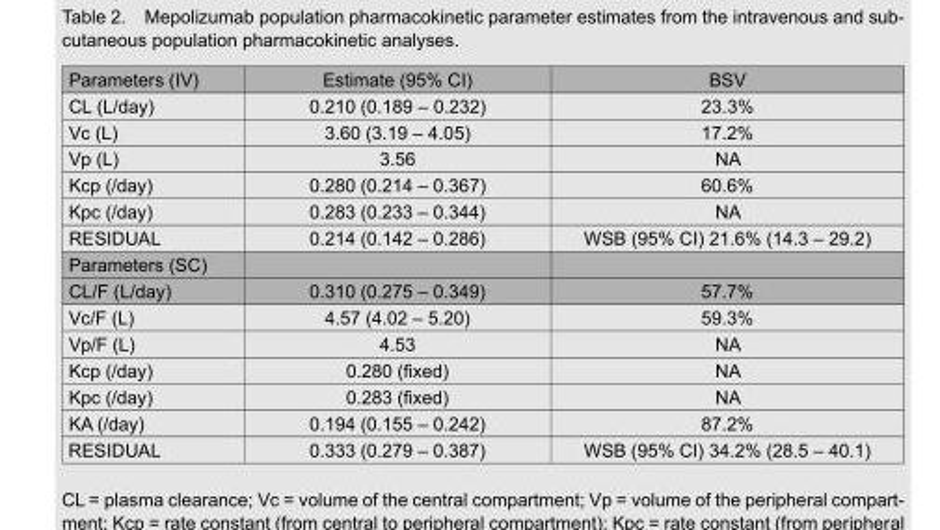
<table><thead><tr><td>Parameters (IV)</td><td>Estimate (95% CI)</td><td>BSV</td></tr></thead><tbody><tr><td>CL (L/day)</td><td>0.210 (0.189 – 0.232)</td><td>23.3%</td></tr><tr><td>Vc (L)</td><td>3.60 (3.19 – 4.05)</td><td>17.2%</td></tr><tr><td>Vp (L)</td><td>3.56</td><td>NA</td></tr><tr><td>Kcp (/day)</td><td>0.280 (0.214 – 0.367)</td><td>60.6%</td></tr><tr><td>Kpc (/day)</td><td>0.283 (0.233 – 0.344)</td><td>NA</td></tr><tr><td>RESIDUAL</td><td>0.214 (0.142 – 0.286)</td><td>WSB (95% CI) 21.6% (14.3 – 29.2)</td></tr><tr><td colspan="3">Parameters (SC)</td></tr><tr><td>CL/F (L/day)</td><td>0.310 (0.275 – 0.349)</td><td>57.7%</td></tr><tr><td>Vc/F (L)</td><td>4.57 (4.02 – 5.20)</td><td>59.3%</td></tr><tr><td>Vp/F (L)</td><td>4.53</td><td>NA</td></tr><tr><td>Kcp (/day)</td><td>0.280 (fixed)</td><td>NA</td></tr><tr><td>Kpc (/day)</td><td>0.283 (fixed)</td><td>NA</td></tr><tr><td>KA (/day)</td><td>0.194 (0.155 – 0.242)</td><td>87.2%</td></tr><tr><td>RESIDUAL</td><td>0.333 (0.279 – 0.387)</td><td>WSB (95% CI) 34.2% (28.5 – 40.1)</td></tr></tbody></table>